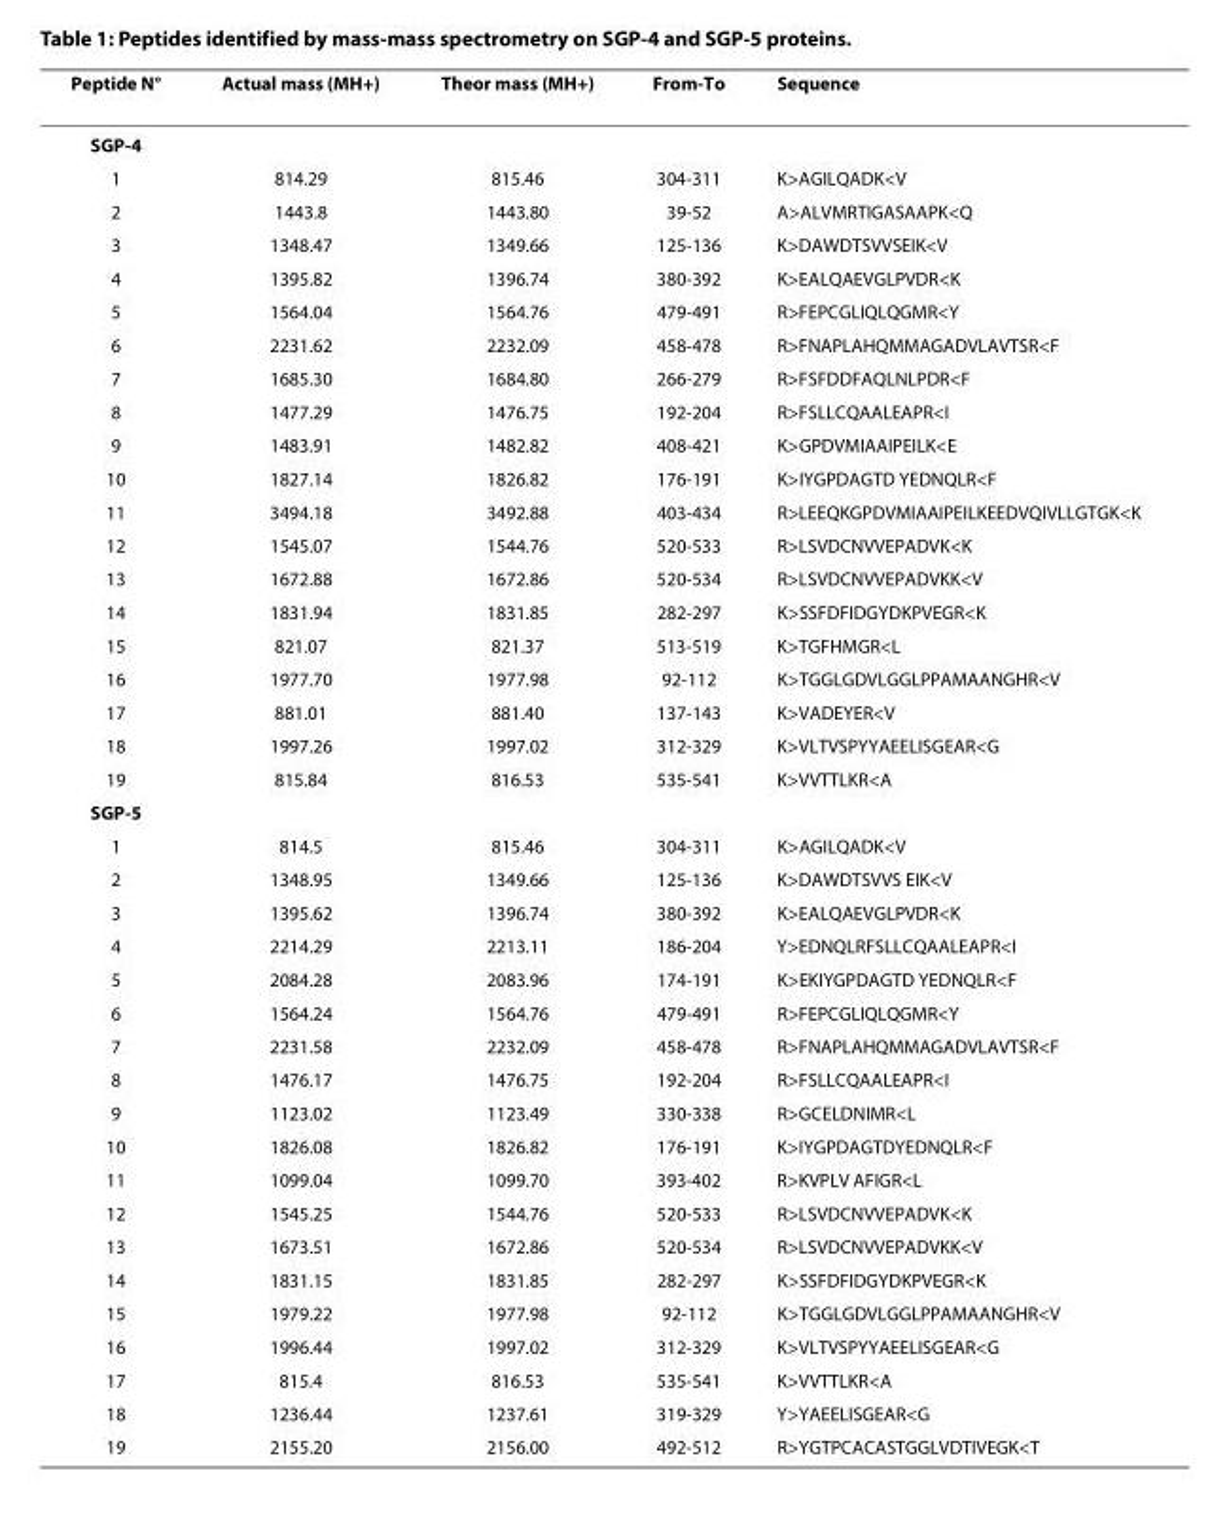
<table><thead><tr><td>Peptide N°</td><td>Actual mass (MH+)</td><td>Theor mass (MH+)</td><td>From-To</td><td>Sequence</td></tr></thead><tbody><tr><td colspan="5">SGP-4</td></tr><tr><td>1</td><td>814.29</td><td>815.46</td><td>304-311</td><td>K&gt;AGILQADK&lt;V</td></tr><tr><td>2</td><td>1443.8</td><td>1443.80</td><td>39-52</td><td>A&gt;ALVMRTIGASAAPK&lt;Q</td></tr><tr><td>3</td><td>1348.47</td><td>1349.66</td><td>125-136</td><td>K&gt;DAWDTSVVSEIK&lt;V</td></tr><tr><td>4</td><td>1395.82</td><td>1396.74</td><td>380-392</td><td>K&gt;EALQAEVGLPVDR&lt;K</td></tr><tr><td>5</td><td>1564.04</td><td>1564.76</td><td>479-491</td><td>R&gt;FEPCGLIQLQGMR&lt;Y</td></tr><tr><td>6</td><td>2231.62</td><td>2232.09</td><td>458-478</td><td>R&gt;FNAPLAHQMMAGADVLAVTSR&lt;F</td></tr><tr><td>7</td><td>1685.30</td><td>1684.80</td><td>266-279</td><td>R&gt;FSFDDFAQLNLPDR&lt;F</td></tr><tr><td>8</td><td>1477.29</td><td>1476.75</td><td>192-204</td><td>R&gt;FSLLCQAALEAPR&lt;I</td></tr><tr><td>9</td><td>1483.91</td><td>1482.82</td><td>408-421</td><td>K&gt;GPDVMIAAIPEILK&lt;E</td></tr><tr><td>10</td><td>1827.14</td><td>1826.82</td><td>176-191</td><td>K&gt;IYGPDAGTD YEDNQLR&lt;F</td></tr><tr><td>11</td><td>3494.18</td><td>3492.88</td><td>403-434</td><td>R&gt;LEEQKGPDVMIAAIPEILKEEDVQIVLLGTGK&lt;K</td></tr><tr><td>12</td><td>1545.07</td><td>1544.76</td><td>520-533</td><td>R&gt;LSVDCNVVEPADVK&lt;K</td></tr><tr><td>13</td><td>1672.88</td><td>1672.86</td><td>520-534</td><td>R&gt;LSVDCNVVEPADVKK&lt;V</td></tr><tr><td>14</td><td>1831.94</td><td>1831.85</td><td>282-297</td><td>K&gt;SSFDFIDGYDKPVEGR&lt;K</td></tr><tr><td>15</td><td>821.07</td><td>821.37</td><td>513-519</td><td>K&gt;TGFHMGR&lt;L</td></tr><tr><td>16</td><td>1977.70</td><td>1977.98</td><td>92-112</td><td>K&gt;TGGLGDVLGGLPPAMAANGHR&lt;V</td></tr><tr><td>17</td><td>881.01</td><td>881.40</td><td>137-143</td><td>K&gt;VADEYER&lt;V</td></tr><tr><td>18</td><td>1997.26</td><td>1997.02</td><td>312-329</td><td>K&gt;VLTVSPYYAEELISGEAR&lt;G</td></tr><tr><td>19</td><td>815.84</td><td>816.53</td><td>535-541</td><td>K&gt;VVTTLKR&lt;A</td></tr><tr><td colspan="5">SGP-5</td></tr><tr><td>1</td><td>814.5</td><td>815.46</td><td>304-311</td><td>K&gt;AGILQADK&lt;V</td></tr><tr><td>2</td><td>1348.95</td><td>1349.66</td><td>125-136</td><td>K&gt;DAWDTSVVS EIK&lt;V</td></tr><tr><td>3</td><td>1395.62</td><td>1396.74</td><td>380-392</td><td>K&gt;EALQAEVGLPVDR&lt;K</td></tr><tr><td>4</td><td>2214.29</td><td>2213.11</td><td>186-204</td><td>Y&gt;EDNQLRFSLLCQAALEAPR&lt;I</td></tr><tr><td>5</td><td>2084.28</td><td>2083.96</td><td>174-191</td><td>K&gt;EKIYGPDAGTD YEDNQLR&lt;F</td></tr><tr><td>6</td><td>1564.24</td><td>1564.76</td><td>479-491</td><td>R&gt;FEPCGLIQLQGMR&lt;Y</td></tr><tr><td>7</td><td>2231.58</td><td>2232.09</td><td>458-478</td><td>R&gt;FNAPLAHQMMAGADVLAVTSR&lt;F</td></tr><tr><td>8</td><td>1476.17</td><td>1476.75</td><td>192-204</td><td>R&gt;FSLLCQAALEAPR&lt;I</td></tr><tr><td>9</td><td>1123.02</td><td>1123.49</td><td>330-338</td><td>R&gt;GCELDNIMR&lt;L</td></tr><tr><td>10</td><td>1826.08</td><td>1826.82</td><td>176-191</td><td>K&gt;IYGPDAGTDYEDNQLR&lt;F</td></tr><tr><td>11</td><td>1099.04</td><td>1099.70</td><td>393-402</td><td>R&gt;KVPLV AFIGR&lt;L</td></tr><tr><td>12</td><td>1545.25</td><td>1544.76</td><td>520-533</td><td>R&gt;LSVDCNVVEPADVK&lt;K</td></tr><tr><td>13</td><td>1673.51</td><td>1672.86</td><td>520-534</td><td>R&gt;LSVDCNVVEPADVKK&lt;V</td></tr><tr><td>14</td><td>1831.15</td><td>1831.85</td><td>282-297</td><td>K&gt;SSFDFIDGYDKPVEGR&lt;K</td></tr><tr><td>15</td><td>1979.22</td><td>1977.98</td><td>92-112</td><td>K&gt;TGGLGDVLGGLPPAMAANGHR&lt;V</td></tr><tr><td>16</td><td>1996.44</td><td>1997.02</td><td>312-329</td><td>K&gt;VLTVSPYYAEELISGEAR&lt;G</td></tr><tr><td>17</td><td>815.4</td><td>816.53</td><td>535-541</td><td>K&gt;VVTTLKR&lt;A</td></tr><tr><td>18</td><td>1236.44</td><td>1237.61</td><td>319-329</td><td>Y&gt;YAEELISGEAR&lt;G</td></tr><tr><td>19</td><td>2155.20</td><td>2156.00</td><td>492-512</td><td>R&gt;YGTPCACASTGGLVDTIVEGK&lt;T</td></tr></tbody></table>